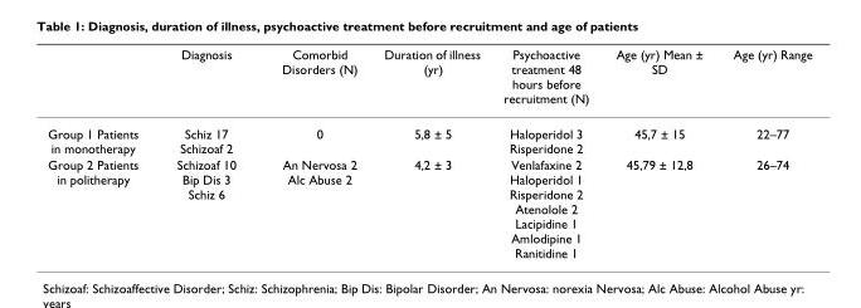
<table><thead><tr><td></td><td>Diagnosis</td><td>Comorbid Disorders (N)</td><td>Duration of illness (yr)</td><td>Psychoactive treatment 48 hours before recruitment (N)</td><td>Age (yr) Mean ± SD</td><td>Age (yr) Range</td></tr></thead><tbody><tr><td>Group 1 Patients in monotherapy</td><td>Schiz 17 Schizoaf 2</td><td>0</td><td>5,8 ± 5</td><td>Haloperidol 3 Risperidone 2</td><td>45,7 ± 15</td><td>22–77</td></tr><tr><td>Group 2 Patients in politherapy</td><td>Schizoaf 10 Bip Dis 3 Schiz 6</td><td>An Nervosa 2 Alc Abuse 2</td><td>4,2 ± 3</td><td>Venlafaxine 2 Haloperidol 1 Risperidone 2 Atenolole 2 Lacipidine 1 Amlodipine 1 Ranitidine 1</td><td>45,79 ± 12,8</td><td>26–74</td></tr></tbody></table>